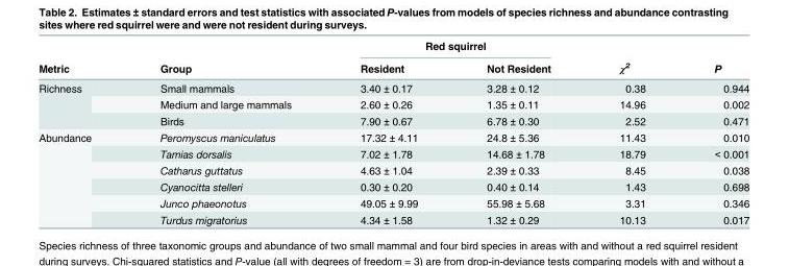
<table><thead><tr><td rowspan="2">Metric</td><td rowspan="2">Group</td><td colspan="2">Red squirrel</td><td rowspan="2">χ<sup>2</sup></td><td rowspan="2">P</td></tr><tr><td>Resident</td><td>Not Resident</td></tr></thead><tbody><tr><td rowspan="3">Richness</td><td>Small mammals</td><td>3.40 ± 0.17</td><td>3.28 ± 0.12</td><td>0.38</td><td>0.944</td></tr><tr><td>Medium and large mammals</td><td>2.60 ± 0.26</td><td>1.35 ± 0.11</td><td>14.96</td><td>0.002</td></tr><tr><td>Birds</td><td>7.90 ± 0.67</td><td>6.78 ± 0.30</td><td>2.52</td><td>0.471</td></tr><tr><td rowspan="6">Abundance</td><td>Peromyscus maniculatus</td><td>17.32 ± 4.11</td><td>24.8 ± 5.36</td><td>11.43</td><td>0.010</td></tr><tr><td>Tamias dorsalis</td><td>7.02 ± 1.78</td><td>14.68 ± 1.78</td><td>18.79</td><td>&lt; 0.001</td></tr><tr><td>Catharus guttatus</td><td>4.63 ± 1.04</td><td>2.39 ± 0.33</td><td>8.45</td><td>0.038</td></tr><tr><td>Cyanocitta stelleri</td><td>0.30 ± 0.20</td><td>0.40 ± 0.14</td><td>1.43</td><td>0.698</td></tr><tr><td>Junco phaeonotus</td><td>49.05 ± 9.99</td><td>55.98 ± 5.68</td><td>3.31</td><td>0.346</td></tr><tr><td>Turdus migratorius</td><td>4.34 ± 1.58</td><td>1.32 ± 0.29</td><td>10.13</td><td>0.017</td></tr></tbody></table>